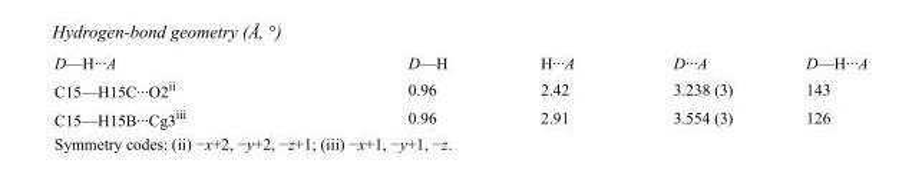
<table><tbody><tr><td>D—H···A</td><td>D—H</td><td>H···A</td><td>D···A</td><td>D—H···A</td></tr><tr><td>C15—H15C···O2<sup>ii</sup></td><td>0.96</td><td>2.42</td><td>3.238 (3)</td><td>143</td></tr><tr><td>C15—H15B···Cg3<sup>iii</sup></td><td>0.96</td><td>2.91</td><td>3.554 (3)</td><td>126</td></tr></tbody></table>